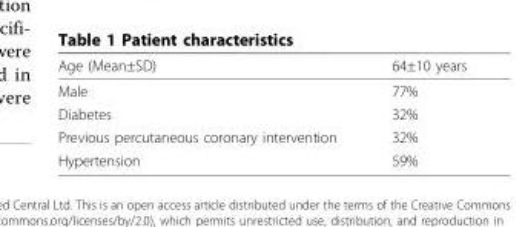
<table><thead><tr><td>Age (Mean±SD)</td><td>64±10 years</td></tr></thead><tbody><tr><td>Male</td><td>77%</td></tr><tr><td>Diabetes</td><td>32%</td></tr><tr><td>Previous percutaneous coronary intervention</td><td>32%</td></tr><tr><td>Hypertension</td><td>59%</td></tr></tbody></table>